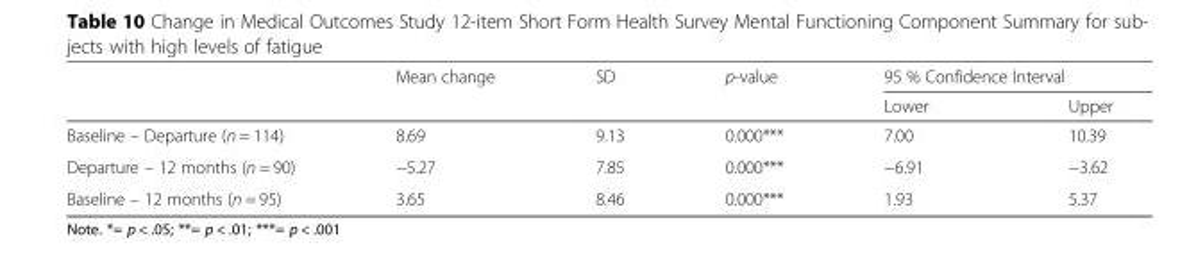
<table><thead><tr><td rowspan="2"></td><td rowspan="2">Mean change</td><td rowspan="2">SD</td><td rowspan="2">p-value</td><td colspan="2">95 % Confidence Interval</td></tr><tr><td>Lower</td><td>Upper</td></tr></thead><tbody><tr><td>Baseline – Departure (n = 114)</td><td>8.69</td><td>9.13</td><td>0.000***</td><td>7.00</td><td>10.39</td></tr><tr><td>Departure – 12 months (n = 90)</td><td>−5.27</td><td>7.85</td><td>0.000***</td><td>−6.91</td><td>−3.62</td></tr><tr><td>Baseline – 12 months (n = 95)</td><td>3.65</td><td>8.46</td><td>0.000***</td><td>1.93</td><td>5.37</td></tr></tbody></table>